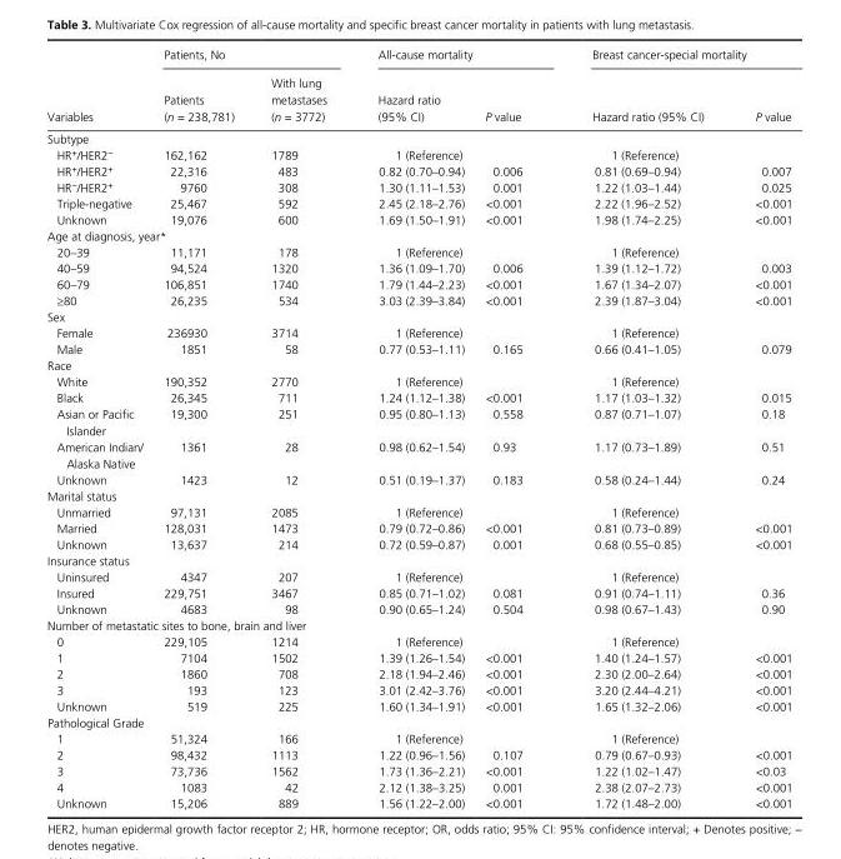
<table><thead><tr><td rowspan="2">Variables</td><td colspan="2">Patients, No</td><td colspan="2">All- cause mortality</td><td colspan="2">Breast cancer- special mortality</td></tr><tr><td>Patients (n = 238,781)</td><td>With lung metastases (n = 3772)</td><td>Hazard ratio (95% CI)</td><td>P value</td><td>Hazard ratio (95% CI)</td><td>P value</td></tr></thead><tbody><tr><td colspan="7">Subtype</td></tr><tr><td>HR<sup>+</sup>/HER2<sup>−</sup></td><td>162,162</td><td>1789</td><td>1 (Reference)</td><td></td><td>1 (Reference)</td><td></td></tr><tr><td>HR<sup>+</sup>/HER2<sup>+</sup></td><td>22,316</td><td>483</td><td>0.82 (0.70–0.94)</td><td>0.006</td><td>0.81 (0.69–0.94)</td><td>0.007</td></tr><tr><td>HR<sup>−</sup>/HER2<sup>+</sup></td><td>9760</td><td>308</td><td>1.30 (1.11–1.53)</td><td>0.001</td><td>1.22 (1.03–1.44)</td><td>0.025</td></tr><tr><td>Triple- negative</td><td>25,467</td><td>592</td><td>2.45 (2.18–2.76)</td><td>&lt;0.001</td><td>2.22 (1.96–2.52)</td><td>&lt;0.001</td></tr><tr><td>Unknown</td><td>19,076</td><td>600</td><td>1.69 (1.50–1.91)</td><td>&lt;0.001</td><td>1.98 (1.74–2.25)</td><td>&lt;0.001</td></tr><tr><td colspan="7">Age at diagnosis, year*</td></tr><tr><td>20–39</td><td>11,171</td><td>178</td><td>1 (Reference)</td><td></td><td>1 (Reference)</td><td></td></tr><tr><td>40–59</td><td>94,524</td><td>1320</td><td>1.36 (1.09–1.70)</td><td>0.006</td><td>1.39 (1.12–1.72)</td><td>0.003</td></tr><tr><td>60–79</td><td>106,851</td><td>1740</td><td>1.79 (1.44–2.23)</td><td>&lt;0.001</td><td>1.67 (1.34–2.07)</td><td>&lt;0.001</td></tr><tr><td>≥80</td><td>26,235</td><td>534</td><td>3.03 (2.39–3.84)</td><td>&lt;0.001</td><td>2.39 (1.87–3.04)</td><td>&lt;0.001</td></tr><tr><td colspan="7">Sex</td></tr><tr><td>Female</td><td>236930</td><td>3714</td><td>1 (Reference)</td><td></td><td>1 (Reference)</td><td></td></tr><tr><td>Male</td><td>1851</td><td>58</td><td>0.77 (0.53–1.11)</td><td>0.165</td><td>0.66 (0.41–1.05)</td><td>0.079</td></tr><tr><td colspan="7">Race</td></tr><tr><td>White</td><td>190,352</td><td>2770</td><td>1 (Reference)</td><td></td><td>1 (Reference)</td><td></td></tr><tr><td>Black</td><td>26,345</td><td>711</td><td>1.24 (1.12–1.38)</td><td>&lt;0.001</td><td>1.17 (1.03–1.32)</td><td>0.015</td></tr><tr><td>Asian or Pacific Islander</td><td>19,300</td><td>251</td><td>0.95 (0.80–1.13)</td><td>0.558</td><td>0.87 (0.71–1.07)</td><td>0.18</td></tr><tr><td>American Indian/ Alaska Native</td><td>1361</td><td>28</td><td>0.98 (0.62–1.54)</td><td>0.93</td><td>1.17 (0.73–1.89)</td><td>0.51</td></tr><tr><td>Unknown</td><td>1423</td><td>12</td><td>0.51 (0.19–1.37)</td><td>0.183</td><td>0.58 (0.24–1.44)</td><td>0.24</td></tr><tr><td colspan="7">Marital status</td></tr><tr><td>Unmarried</td><td>97,131</td><td>2085</td><td>1 (Reference)</td><td></td><td>1 (Reference)</td><td></td></tr><tr><td>Married</td><td>128,031</td><td>1473</td><td>0.79 (0.72–0.86)</td><td>&lt;0.001</td><td>0.81 (0.73–0.89)</td><td>&lt;0.001</td></tr><tr><td>Unknown</td><td>13,637</td><td>214</td><td>0.72 (0.59–0.87)</td><td>0.001</td><td>0.68 (0.55–0.85)</td><td>&lt;0.001</td></tr><tr><td colspan="7">Insurance status</td></tr><tr><td>Uninsured</td><td>4347</td><td>207</td><td>1 (Reference)</td><td></td><td>1 (Reference)</td><td></td></tr><tr><td>Insured</td><td>229,751</td><td>3467</td><td>0.85 (0.71–1.02)</td><td>0.081</td><td>0.91 (0.74–1.11)</td><td>0.36</td></tr><tr><td>Unknown</td><td>4683</td><td>98</td><td>0.90 (0.65–1.24)</td><td>0.504</td><td>0.98 (0.67–1.43)</td><td>0.90</td></tr><tr><td colspan="7">Number of metastatic sites to bone, brain and liver</td></tr><tr><td>0</td><td>229,105</td><td>1214</td><td>1 (Reference)</td><td></td><td>1 (Reference)</td><td></td></tr><tr><td>1</td><td>7104</td><td>1502</td><td>1.39 (1.26–1.54)</td><td>&lt;0.001</td><td>1.40 (1.24–1.57)</td><td>&lt;0.001</td></tr><tr><td>2</td><td>1860</td><td>708</td><td>2.18 (1.94–2.46)</td><td>&lt;0.001</td><td>2.30 (2.00–2.64)</td><td>&lt;0.001</td></tr><tr><td>3</td><td>193</td><td>123</td><td>3.01 (2.42–3.76)</td><td>&lt;0.001</td><td>3.20 (2.44–4.21)</td><td>&lt;0.001</td></tr><tr><td>Unknown</td><td>519</td><td>225</td><td>1.60 (1.34–1.91)</td><td>&lt;0.001</td><td>1.65 (1.32–2.06)</td><td>&lt;0.001</td></tr><tr><td colspan="7">Pathological Grade</td></tr><tr><td>1</td><td>51,324</td><td>166</td><td>1 (Reference)</td><td></td><td>1 (Reference)</td><td></td></tr><tr><td>2</td><td>98,432</td><td>1113</td><td>1.22 (0.96–1.56)</td><td>0.107</td><td>0.79 (0.67–0.93)</td><td>&lt;0.001</td></tr><tr><td>3</td><td>73,736</td><td>1562</td><td>1.73 (1.36–2.21)</td><td>&lt;0.001</td><td>1.22 (1.02–1.47)</td><td>&lt;0.03</td></tr><tr><td>4</td><td>1083</td><td>42</td><td>2.12 (1.38–3.25)</td><td>0.001</td><td>2.38 (2.07–2.73)</td><td>&lt;0.001</td></tr><tr><td>Unknown</td><td>15,206</td><td>889</td><td>1.56 (1.22–2.00)</td><td>&lt;0.001</td><td>1.72 (1.48–2.00)</td><td>&lt;0.001</td></tr></tbody></table>